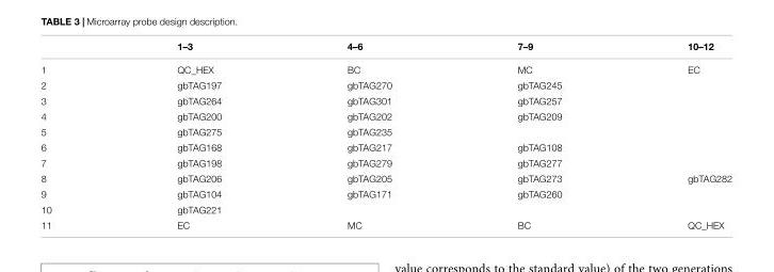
<table><thead><tr><td></td><td>1–3</td><td>4–6</td><td>7–9</td><td>10–12</td></tr></thead><tbody><tr><td>1</td><td>QC_HEX</td><td>BC</td><td>MC</td><td>EC</td></tr><tr><td>2</td><td>gbTAG197</td><td>gbTAG270</td><td>gbTAG245</td><td></td></tr><tr><td>3</td><td>gbTAG264</td><td>gbTAG301</td><td>gbTAG257</td><td></td></tr><tr><td>4</td><td>gbTAG200</td><td>gbTAG202</td><td>gbTAG209</td><td></td></tr><tr><td>5</td><td>gbTAG275</td><td>gbTAG235</td><td></td><td></td></tr><tr><td>6</td><td>gbTAG168</td><td>gbTAG217</td><td>gbTAG108</td><td></td></tr><tr><td>7</td><td>gbTAG198</td><td>gbTAG279</td><td>gbTAG277</td><td></td></tr><tr><td>8</td><td>gbTAG206</td><td>gbTAG205</td><td>gbTAG273</td><td>gbTAG282</td></tr><tr><td>9</td><td>gbTAG104</td><td>gbTAG171</td><td>gbTAG260</td><td></td></tr><tr><td>10</td><td>gbTAG221</td><td></td><td></td><td></td></tr><tr><td>11</td><td>EC</td><td>MC</td><td>BC</td><td>QC_HEX</td></tr></tbody></table>